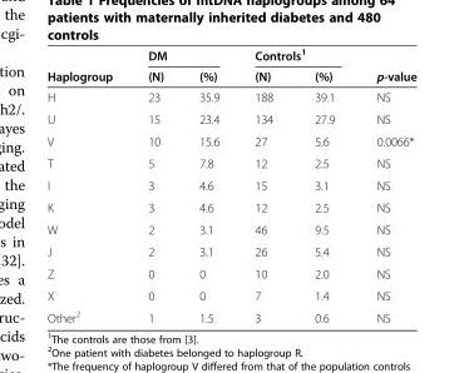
<table><thead><tr><td rowspan="2">Haplogroup</td><td colspan="2">DM</td><td colspan="2">Controls<sup>1</sup></td><td rowspan="2">p-value</td></tr><tr><td>(N)</td><td>(%)</td><td>(N)</td><td>(%)</td></tr></thead><tbody><tr><td>H</td><td>23</td><td>35.9</td><td>188</td><td>39.1</td><td>NS</td></tr><tr><td>U</td><td>15</td><td>23.4</td><td>134</td><td>27.9</td><td>NS</td></tr><tr><td>V</td><td>10</td><td>15.6</td><td>27</td><td>5.6</td><td>0.0066*</td></tr><tr><td>T</td><td>5</td><td>7.8</td><td>12</td><td>2.5</td><td>NS</td></tr><tr><td>I</td><td>3</td><td>4.6</td><td>15</td><td>3.1</td><td>NS</td></tr><tr><td>K</td><td>3</td><td>4.6</td><td>12</td><td>2.5</td><td>NS</td></tr><tr><td>W</td><td>2</td><td>3.1</td><td>46</td><td>9.5</td><td>NS</td></tr><tr><td>J</td><td>2</td><td>3.1</td><td>26</td><td>5.4</td><td>NS</td></tr><tr><td>Z</td><td>0</td><td>0</td><td>10</td><td>2.0</td><td>NS</td></tr><tr><td>X</td><td>0</td><td>0</td><td>7</td><td>1.4</td><td>NS</td></tr><tr><td>Other<sup>2</sup></td><td>1</td><td>1.5</td><td>3</td><td>0.6</td><td>NS</td></tr></tbody></table>